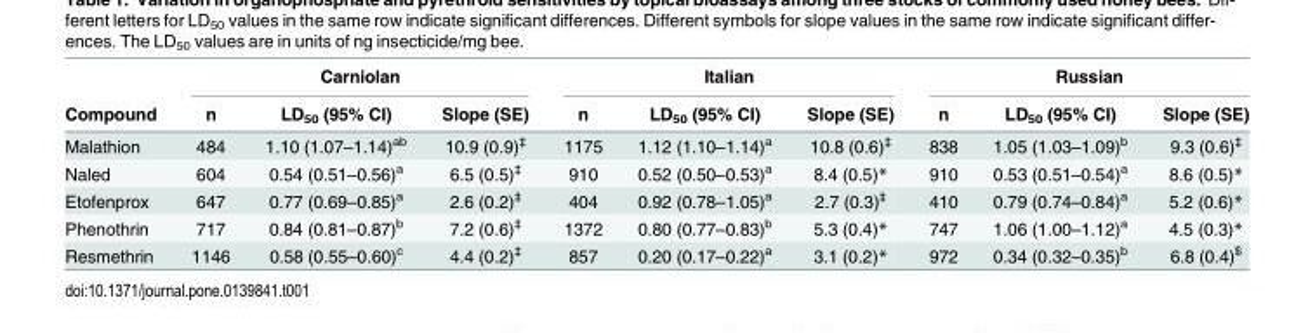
<table><thead><tr><td rowspan="2">Compound</td><td colspan="3">Carniolan</td><td colspan="3">Italian</td><td colspan="3">Russian</td></tr><tr><td>n</td><td>LD<sub>50</sub> (95% CI)</td><td>Slope (SE)</td><td>n</td><td>LD<sub>50</sub> (95% CI)</td><td>Slope (SE)</td><td>n</td><td>LD<sub>50</sub> (95% CI)</td><td>Slope (SE)</td></tr></thead><tbody><tr><td>Malathion</td><td>484</td><td>1.10 (1.07–1.14)<sup>ab</sup></td><td>10.9 (0.9)<sup>‡</sup></td><td>1175</td><td>1.12 (1.10–1.14)<sup>a</sup></td><td>10.8 (0.6)<sup>‡</sup></td><td>838</td><td>1.05 (1.03–1.09)<sup>b</sup></td><td>9.3 (0.6)<sup>‡</sup></td></tr><tr><td>Naled</td><td>604</td><td>0.54 (0.51–0.56)<sup>a</sup></td><td>6.5 (0.5)<sup>‡</sup></td><td>910</td><td>0.52 (0.50–0.53)<sup>a</sup></td><td>8.4 (0.5)*</td><td>910</td><td>0.53 (0.51–0.54)<sup>a</sup></td><td>8.6 (0.5)*</td></tr><tr><td>Etofenprox</td><td>647</td><td>0.77 (0.69–0.85)<sup>a</sup></td><td>2.6 (0.2)<sup>‡</sup></td><td>404</td><td>0.92 (0.78–1.05)<sup>a</sup></td><td>2.7 (0.3)<sup>‡</sup></td><td>410</td><td>0.79 (0.74–0.84)<sup>a</sup></td><td>5.2 (0.6)*</td></tr><tr><td>Phenothrin</td><td>717</td><td>0.84 (0.81–0.87)<sup>b</sup></td><td>7.2 (0.6)<sup>‡</sup></td><td>1372</td><td>0.80 (0.77–0.83)<sup>b</sup></td><td>5.3 (0.4)*</td><td>747</td><td>1.06 (1.00–1.12)<sup>a</sup></td><td>4.5 (0.3)*</td></tr><tr><td>Resmethrin</td><td>1146</td><td>0.58 (0.55–0.60)<sup>c</sup></td><td>4.4 (0.2)<sup>‡</sup></td><td>857</td><td>0.20 (0.17–0.22)<sup>a</sup></td><td>3.1 (0.2)*</td><td>972</td><td>0.34 (0.32–0.35)<sup>b</sup></td><td>6.8 (0.4)<sup>$</sup></td></tr></tbody></table>